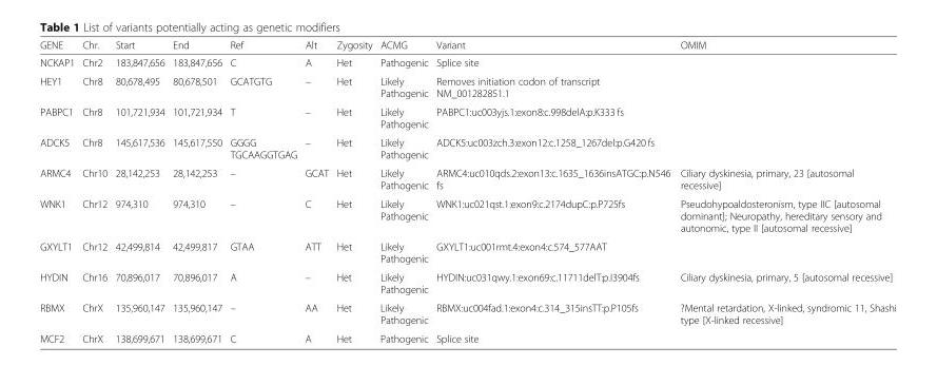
<table><thead><tr><td>GENE</td><td>Chr.</td><td>Start</td><td>End</td><td>Ref</td><td>Alt</td><td>Zygosity</td><td>ACMG</td><td>Variant</td><td>OMIM</td></tr></thead><tbody><tr><td>NCKAP1</td><td>Chr2</td><td>183,847,656</td><td>183,847,656</td><td>C</td><td>A</td><td>Het</td><td>Pathogenic</td><td>Splice site</td><td></td></tr><tr><td>HEY1</td><td>Chr8</td><td>80,678,495</td><td>80,678,501</td><td>GCATGTG</td><td>–</td><td>Het</td><td>Likely Pathogenic</td><td>Removes initiation codon of transcript NM_001282851.1</td><td></td></tr><tr><td>PABPC1</td><td>Chr8</td><td>101,721,934</td><td>101,721,934</td><td>T</td><td>–</td><td>Het</td><td>Likely Pathogenic</td><td>PABPC1:uc003yjs.1:exon8:c.998delA:p.K333 fs</td><td></td></tr><tr><td>ADCK5</td><td>Chr8</td><td>145,617,536</td><td>145,617,550</td><td>GGGG TGCAAGGTGAG</td><td>–</td><td>Het</td><td>Likely Pathogenic</td><td>ADCK5:uc003zch.3:exon12:c.1258_1267del:p.G420 fs</td><td></td></tr><tr><td>ARMC4</td><td>Chr10</td><td>28,142,253</td><td>28,142,253</td><td>–</td><td>GCAT</td><td>Het</td><td>Likely Pathogenic</td><td>ARMC4:uc010qds.2:exon13:c.1635_1636insATGC:p.N546 fs</td><td>Ciliary dyskinesia, primary, 23 [autosomal recessive]</td></tr><tr><td>WNK1</td><td>Chr12</td><td>974,310</td><td>974,310</td><td>–</td><td>C</td><td>Het</td><td>Likely Pathogenic</td><td>WNK1:uc021qst.1:exon9:c.2174dupC:p.P725fs</td><td>Pseudohypoaldosteronism, type IIC [autosomal dominant]; Neuropathy, hereditary sensory and autonomic, type II [autosomal recessive]</td></tr><tr><td>GXYLT1</td><td>Chr12</td><td>42,499,814</td><td>42,499,817</td><td>GTAA</td><td>ATT</td><td>Het</td><td>Likely Pathogenic</td><td>GXYLT1:uc001rmt.4:exon4:c.574_577AAT</td><td></td></tr><tr><td>HYDIN</td><td>Chr16</td><td>70,896,017</td><td>70,896,017</td><td>A</td><td>–</td><td>Het</td><td>Likely Pathogenic</td><td>HYDIN:uc031qwy.1:exon69:c.11711delT:p.I3904fs</td><td>Ciliary dyskinesia, primary, 5 [autosomal recessive]</td></tr><tr><td>RBMX</td><td>ChrX</td><td>135,960,147</td><td>135,960,147</td><td>–</td><td>AA</td><td>Het</td><td>Likely Pathogenic</td><td>RBMX:uc004fad.1:exon4:c.314_315insTT:p.P105fs</td><td>?Mental retardation, X-linked, syndromic 11, Shashi type [X-linked recessive]</td></tr><tr><td>MCF2</td><td>ChrX</td><td>138,699,671</td><td>138,699,671</td><td>C</td><td>A</td><td>Het</td><td>Pathogenic</td><td>Splice site</td><td></td></tr></tbody></table>